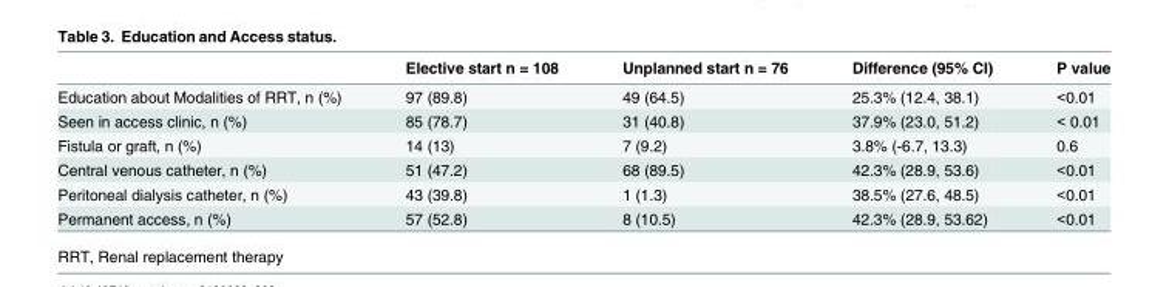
<table><thead><tr><td></td><td>Elective start n = 108</td><td>Unplanned start n = 76</td><td>Difference (95% CI)</td><td>P value</td></tr></thead><tbody><tr><td>Education about Modalities of RRT, n (%)</td><td>97 (89.8)</td><td>49 (64.5)</td><td>25.3% (12.4, 38.1)</td><td>&lt;0.01</td></tr><tr><td>Seen in access clinic, n (%)</td><td>85 (78.7)</td><td>31 (40.8)</td><td>37.9% (23.0, 51.2)</td><td>&lt; 0.01</td></tr><tr><td>Fistula or graft, n (%)</td><td>14 (13)</td><td>7 (9.2)</td><td>3.8% (-6.7, 13.3)</td><td>0.6</td></tr><tr><td>Central venous catheter, n (%)</td><td>51 (47.2)</td><td>68 (89.5)</td><td>42.3% (28.9, 53.6)</td><td>&lt;0.01</td></tr><tr><td>Peritoneal dialysis catheter, n (%)</td><td>43 (39.8)</td><td>1 (1.3)</td><td>38.5% (27.6, 48.5)</td><td>&lt;0.01</td></tr><tr><td>Permanent access, n (%)</td><td>57 (52.8)</td><td>8 (10.5)</td><td>42.3% (28.9, 53.62)</td><td>&lt;0.01</td></tr></tbody></table>